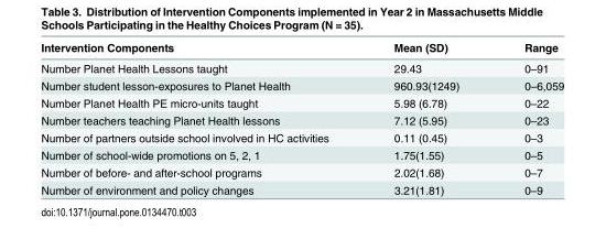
<table><thead><tr><td>Intervention Components</td><td>Mean (SD)</td><td>Range</td></tr></thead><tbody><tr><td>Number Planet Health Lessons taught</td><td>29.43</td><td>0–91</td></tr><tr><td>Number student lesson-exposures to Planet Health</td><td>960.93(1249)</td><td>0–6,059</td></tr><tr><td>Number Planet Health PE micro-units taught</td><td>5.98 (6.78)</td><td>0–22</td></tr><tr><td>Number teachers teaching Planet Health lessons</td><td>7.12 (5.95)</td><td>0–23</td></tr><tr><td>Number of partners outside school involved in HC activities</td><td>0.11 (0.45)</td><td>0–3</td></tr><tr><td>Number of school-wide promotions on 5, 2, 1</td><td>1.75(1.55)</td><td>0–5</td></tr><tr><td>Number of before- and after-school programs</td><td>2.02(1.68)</td><td>0–7</td></tr><tr><td>Number of environment and policy changes</td><td>3.21(1.81)</td><td>0–9</td></tr></tbody></table>